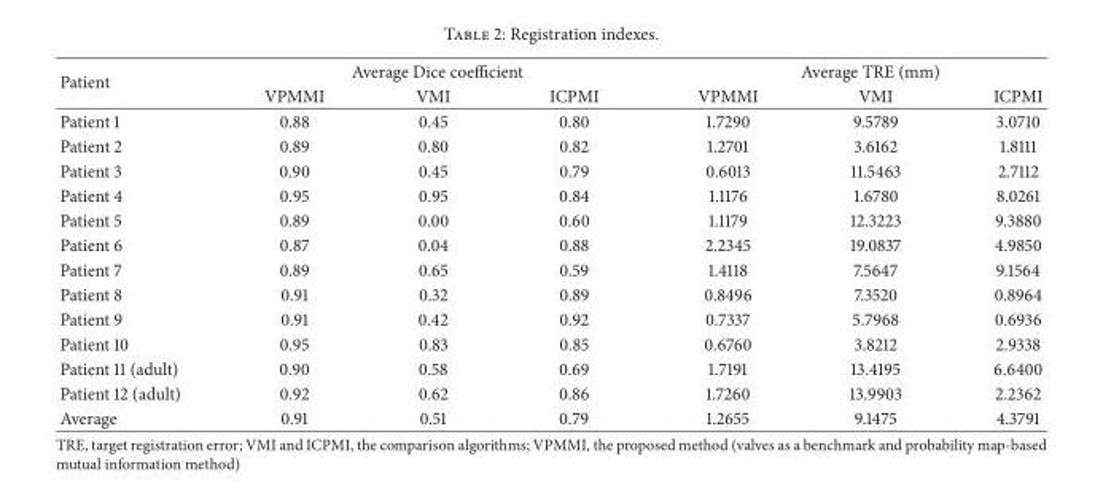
<table><thead><tr><td rowspan="2">Patient</td><td colspan="3">Average Dice coefficient</td><td colspan="3">Average TRE (mm)</td></tr><tr><td>VPMMI</td><td>VMI</td><td>ICPMI</td><td>VPMMI</td><td>VMI</td><td>ICPMI</td></tr></thead><tbody><tr><td>Patient 1</td><td>0.88</td><td>0.45</td><td>0.80</td><td>1.7290</td><td>9.5789</td><td>3.0710</td></tr><tr><td>Patient 2</td><td>0.89</td><td>0.80</td><td>0.82</td><td>1.2701</td><td>3.6162</td><td>1.8111</td></tr><tr><td>Patient 3</td><td>0.90</td><td>0.45</td><td>0.79</td><td>0.6013</td><td>11.5463</td><td>2.7112</td></tr><tr><td>Patient 4</td><td>0.95</td><td>0.95</td><td>0.84</td><td>1.1176</td><td>1.6780</td><td>8.0261</td></tr><tr><td>Patient 5</td><td>0.89</td><td>0.00</td><td>0.60</td><td>1.1179</td><td>12.3223</td><td>9.3880</td></tr><tr><td>Patient 6</td><td>0.87</td><td>0.04</td><td>0.88</td><td>2.2345</td><td>19.0837</td><td>4.9850</td></tr><tr><td>Patient 7</td><td>0.89</td><td>0.65</td><td>0.59</td><td>1.4118</td><td>7.5647</td><td>9.1564</td></tr><tr><td>Patient 8</td><td>0.91</td><td>0.32</td><td>0.89</td><td>0.8496</td><td>7.3520</td><td>0.8964</td></tr><tr><td>Patient 9</td><td>0.91</td><td>0.42</td><td>0.92</td><td>0.7337</td><td>5.7968</td><td>0.6936</td></tr><tr><td>Patient 10</td><td>0.95</td><td>0.83</td><td>0.85</td><td>0.6760</td><td>3.8212</td><td>2.9338</td></tr><tr><td>Patient 11 (adult)</td><td>0.90</td><td>0.58</td><td>0.69</td><td>1.7191</td><td>13.4195</td><td>6.6400</td></tr><tr><td>Patient 12 (adult)</td><td>0.92</td><td>0.62</td><td>0.86</td><td>1.7260</td><td>13.9903</td><td>2.2362</td></tr><tr><td>Average</td><td>0.91</td><td>0.51</td><td>0.79</td><td>1.2655</td><td>9.1475</td><td>4.3791</td></tr></tbody></table>